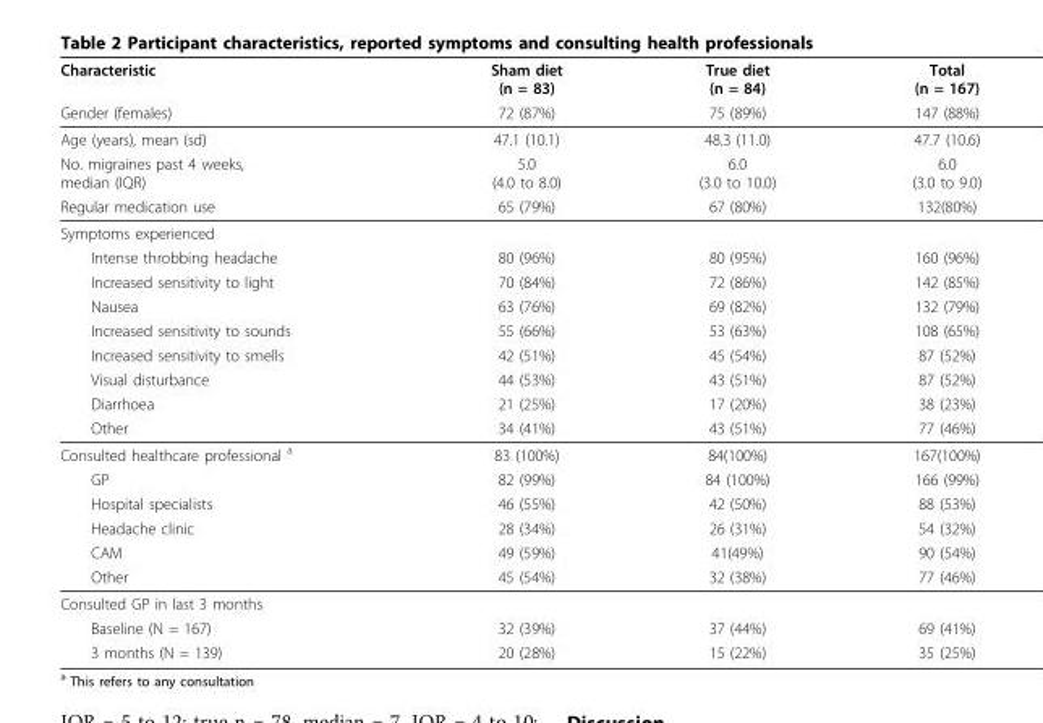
<table><thead><tr><td rowspan="2">Characteristic Gender (females)</td><td rowspan="2">Sham diet (n = 83) 72 (87%)</td><td rowspan="2">True diet (n = 84) 75 (89%)</td><td rowspan="2">Total (n = 167) 147 (88%)</td></tr><tr></tr></thead><tbody><tr><td>Age (years), mean (sd)</td><td>47.1 (10.1)</td><td>48.3 (11.0)</td><td>47.7 (10.6)</td></tr><tr><td>No. migraines past 4 weeks, median (IQR)</td><td>5.0 (4.0 to 8.0)</td><td>6.0 (3.0 to 10.0)</td><td>6.0 (3.0 to 9.0)</td></tr><tr><td>Regular medication use</td><td>65 (79%)</td><td>67 (80%)</td><td>132(80%)</td></tr><tr><td colspan="4">Symptoms experienced</td></tr><tr><td>Intense throbbing headache</td><td>80 (96%)</td><td>80 (95%)</td><td>160 (96%)</td></tr><tr><td>Increased sensitivity to light</td><td>70 (84%)</td><td>72 (86%)</td><td>142 (85%)</td></tr><tr><td>Nausea</td><td>63 (76%)</td><td>69 (82%)</td><td>132 (79%)</td></tr><tr><td>Increased sensitivity to sounds</td><td>55 (66%)</td><td>53 (63%)</td><td>108 (65%)</td></tr><tr><td>Increased sensitivity to smells</td><td>42 (51%)</td><td>45 (54%)</td><td>87 (52%)</td></tr><tr><td>Visual disturbance</td><td>44 (53%)</td><td>43 (51%)</td><td>87 (52%)</td></tr><tr><td>Diarrhoea</td><td>21 (25%)</td><td>17 (20%)</td><td>38 (23%)</td></tr><tr><td>Other</td><td>34 (41%)</td><td>43 (51%)</td><td>77 (46%)</td></tr><tr><td>Consulted healthcare professional <sup>a</sup></td><td>83 (100%)</td><td>84(100%)</td><td>167(100%)</td></tr><tr><td>GP</td><td>82 (99%)</td><td>84 (100%)</td><td>166 (99%)</td></tr><tr><td>Hospital specialists</td><td>46 (55%)</td><td>42 (50%)</td><td>88 (53%)</td></tr><tr><td>Headache clinic</td><td>28 (34%)</td><td>26 (31%)</td><td>54 (32%)</td></tr><tr><td>CAM</td><td>49 (59%)</td><td>41(49%)</td><td>90 (54%)</td></tr><tr><td>Other</td><td>45 (54%)</td><td>32 (38%)</td><td>77 (46%)</td></tr><tr><td colspan="4">Consulted GP in last 3 months</td></tr><tr><td>Baseline (N = 167)</td><td>32 (39%)</td><td>37 (44%)</td><td>69 (41%)</td></tr><tr><td>3 months (N = 139)</td><td>20 (28%)</td><td>15 (22%)</td><td>35 (25%)</td></tr></tbody></table>